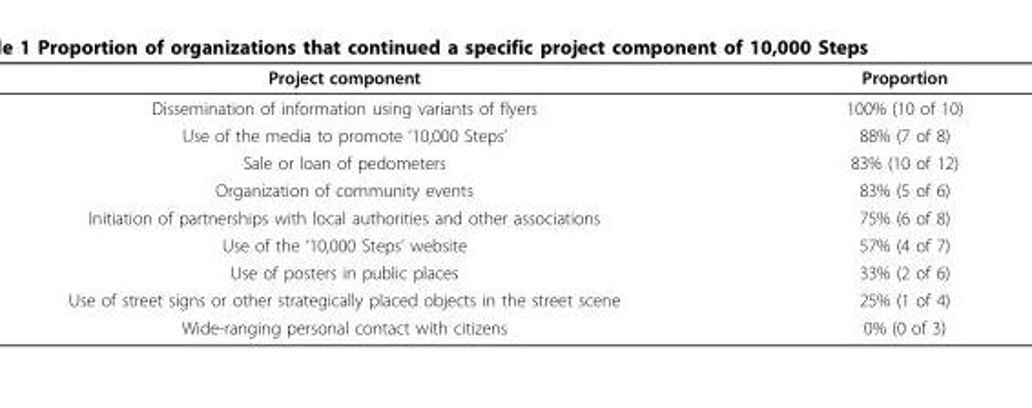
<table><thead><tr><td>Project component</td><td>Proportion</td></tr></thead><tbody><tr><td>Dissemination of information using variants of flyers</td><td>100% (10 of 10)</td></tr><tr><td>Use of the media to promote ‘10,000 Steps’</td><td>88% (7 of 8)</td></tr><tr><td>Sale or loan of pedometers</td><td>83% (10 of 12)</td></tr><tr><td>Organization of community events</td><td>83% (5 of 6)</td></tr><tr><td>Initiation of partnerships with local authorities and other associations</td><td>75% (6 of 8)</td></tr><tr><td>Use of the ‘10,000 Steps’ website</td><td>57% (4 of 7)</td></tr><tr><td>Use of posters in public places</td><td>33% (2 of 6)</td></tr><tr><td>Use of street signs or other strategically placed objects in the street scene</td><td>25% (1 of 4)</td></tr><tr><td>Wide-ranging personal contact with citizens</td><td>0% (0 of 3)</td></tr></tbody></table>